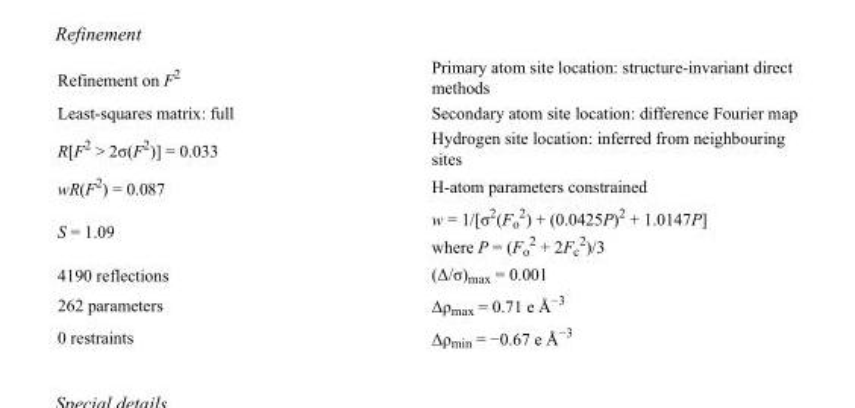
<table><tbody><tr><td>Refinement on F<sup>2</sup></td><td>Primary atom site location: structure-invariant direct methods</td></tr><tr><td>Least-squares matrix: full</td><td>Secondary atom site location: difference Fourier map</td></tr><tr><td>R[F<sup>2</sup> &gt; 2σ(F<sup>2</sup>)] = 0.033</td><td>Hydrogen site location: inferred from neighbouring sites</td></tr><tr><td>wR(F<sup>2</sup>) = 0.087</td><td>H-atom parameters constrained</td></tr><tr><td>S = 1.09</td><td>w = 1/[σ<sup>2</sup>(F<sub>o</sub> <sup>2</sup>) + (0.0425P)<sup>2</sup> + 1.0147P] where P = (F<sub>o</sub> <sup>2</sup> + 2F<sub>c</sub> <sup>2</sup>)/3</td></tr><tr><td>4190 reflections</td><td>(Δ/σ)<sub>max</sub> = 0.001</td></tr><tr><td>262 parameters</td><td>Δρ<sub>max</sub> = 0.71 e Å<sup>−3</sup></td></tr><tr><td>0 restraints</td><td>Δρ<sub>min</sub> = −0.67 e Å<sup>−3</sup></td></tr></tbody></table>